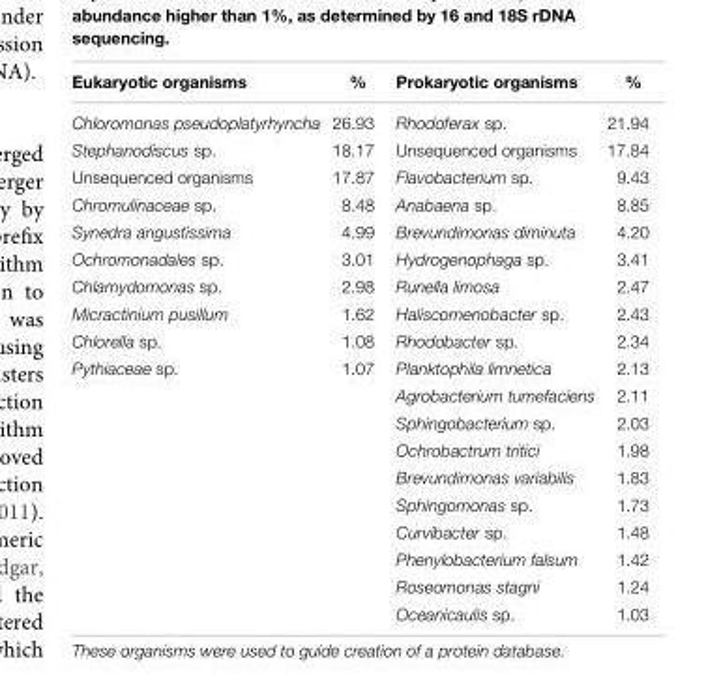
<table><thead><tr><td>Eukaryotic organisms</td><td>%</td><td>Prokaryotic organisms</td><td>%</td></tr></thead><tbody><tr><td>Chloromonas pseudoplatyrhyncha</td><td>26.93</td><td>Rhodoferax sp.</td><td>21.94</td></tr><tr><td>Stephanodiscus sp.</td><td>18.17</td><td>Unsequenced organisms</td><td>17.84</td></tr><tr><td>Unsequenced organisms</td><td>17.87</td><td>Flavobacterium sp.</td><td>9.43</td></tr><tr><td>Chromulinaceae sp.</td><td>8.48</td><td>Anabaena sp.</td><td>8.85</td></tr><tr><td>Synedra angustissima</td><td>4.99</td><td>Brevundimonas diminuta</td><td>4.20</td></tr><tr><td>Ochromonadales sp.</td><td>3.01</td><td>Hydrogenophaga sp.</td><td>3.41</td></tr><tr><td>Chlamydomonas sp.</td><td>2.98</td><td>Runella limosa</td><td>2.47</td></tr><tr><td>Micractinium pusillum</td><td>1.62</td><td>Haliscomenobacter sp.</td><td>2.43</td></tr><tr><td>Chlorella sp.</td><td>1.08</td><td>Rhodobacter sp.</td><td>2.34</td></tr><tr><td rowspan="10">Pythiaceae sp.</td><td>1.07</td><td>Planktophila limnetica</td><td>2.13</td></tr><tr><td></td><td>Agrobacterium tumefaciens</td><td>2.11</td></tr><tr><td></td><td>Sphingobacterium sp.</td><td>2.03</td></tr><tr><td></td><td>Ochrobactrum tritici</td><td>1.98</td></tr><tr><td></td><td>Brevundimonas variabilis</td><td>1.83</td></tr><tr><td></td><td>Sphingomonas sp.</td><td>1.73</td></tr><tr><td></td><td>Curvibacter sp.</td><td>1.48</td></tr><tr><td></td><td>Phenylobacterium falsum</td><td>1.42</td></tr><tr><td></td><td>Roseomonas stagni</td><td>1.24</td></tr><tr><td></td><td>Oceanicaulis sp.</td><td>1.03</td></tr></tbody></table>